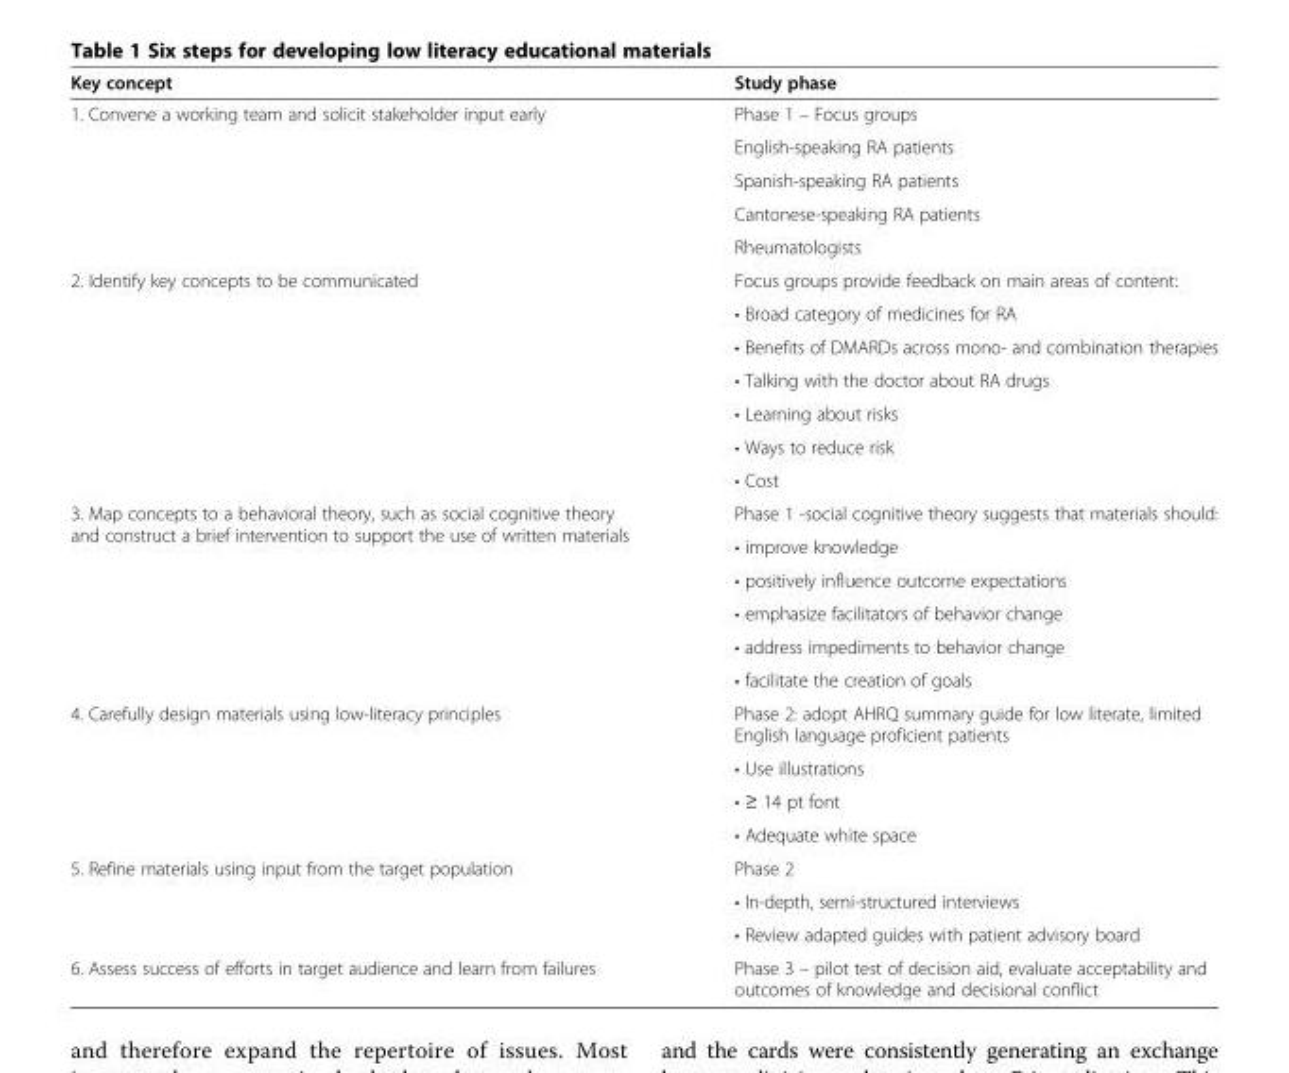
<table><thead><tr><td>Key concept</td><td>Study phase</td></tr></thead><tbody><tr><td rowspan="5">1. Convene a working team and solicit stakeholder input early</td><td>Phase 1 – Focus groups</td></tr><tr><td>English-speaking RA patients</td></tr><tr><td>Spanish-speaking RA patients</td></tr><tr><td>Cantonese-speaking RA patients</td></tr><tr><td>Rheumatologists</td></tr><tr><td rowspan="7">2. Identify key concepts to be communicated</td><td>Focus groups provide feedback on main areas of content:</td></tr><tr><td>• Broad category of medicines for RA</td></tr><tr><td>• Benefits of DMARDs across mono- and combination therapies</td></tr><tr><td>• Talking with the doctor about RA drugs</td></tr><tr><td>• Learning about risks</td></tr><tr><td>• Ways to reduce risk</td></tr><tr><td>• Cost</td></tr><tr><td rowspan="6">3. Map concepts to a behavioral theory, such as social cognitive theory and construct a brief intervention to support the use of written materials</td><td>Phase 1 -social cognitive theory suggests that materials should:</td></tr><tr><td>• improve knowledge</td></tr><tr><td>• positively influence outcome expectations</td></tr><tr><td>• emphasize facilitators of behavior change</td></tr><tr><td>• address impediments to behavior change</td></tr><tr><td>• facilitate the creation of goals</td></tr><tr><td rowspan="4">4. Carefully design materials using low-literacy principles</td><td>Phase 2: adopt AHRQ summary guide for low literate, limited English language proficient patients</td></tr><tr><td>• Use illustrations</td></tr><tr><td>• ≥ 14 pt font</td></tr><tr><td>• Adequate white space</td></tr><tr><td rowspan="3">5. Refine materials using input from the target population</td><td>Phase 2</td></tr><tr><td>• In-depth, semi-structured interviews</td></tr><tr><td>• Review adapted guides with patient advisory board</td></tr><tr><td>6. Assess success of efforts in target audience and learn from failures</td><td>Phase 3 – pilot test of decision aid, evaluate acceptability and outcomes of knowledge and decisional conflict</td></tr></tbody></table>